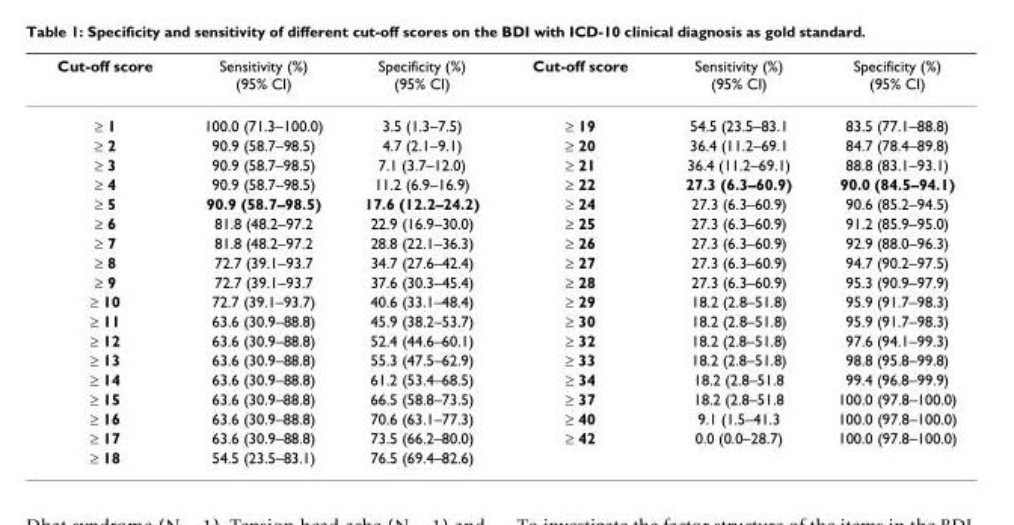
<table><thead><tr><td>Cut-off score</td><td>Sensitivity (%) (95% CI)</td><td>Specificity (%) (95% CI)</td><td>Cut-off score</td><td>Sensitivity (%) (95% CI)</td><td>Specificity (%) (95% CI)</td></tr></thead><tbody><tr><td>≥ 1</td><td>100.0 (71.3–100.0)</td><td>3.5 (1.3–7.5)</td><td>≥ 19</td><td>54.5 (23.5–83.1</td><td>83.5 (77.1–88.8)</td></tr><tr><td>≥ 2</td><td>90.9 (58.7–98.5)</td><td>4.7 (2.1–9.1)</td><td>≥ 20</td><td>36.4 (11.2–69.1</td><td>84.7 (78.4–89.8)</td></tr><tr><td>≥ 3</td><td>90.9 (58.7–98.5)</td><td>7.1 (3.7–12.0)</td><td>≥ 21</td><td>36.4 (11.2–69.1)</td><td>88.8 (83.1–93.1)</td></tr><tr><td>≥ 4</td><td>90.9 (58.7–98.5)</td><td>11.2 (6.9–16.9)</td><td>≥ 22</td><td>27.3 (6.3–60.9)</td><td>90.0 (84.5–94.1)</td></tr><tr><td>≥ 5</td><td>90.9 (58.7–98.5)</td><td>17.6 (12.2–24.2)</td><td>≥ 24</td><td>27.3 (6.3–60.9)</td><td>90.6 (85.2–94.5)</td></tr><tr><td>≥ 6</td><td>81.8 (48.2–97.2</td><td>22.9 (16.9–30.0)</td><td>≥ 25</td><td>27.3 (6.3–60.9)</td><td>91.2 (85.9–95.0)</td></tr><tr><td>≥ 7</td><td>81.8 (48.2–97.2</td><td>28.8 (22.1–36.3)</td><td>≥ 26</td><td>27.3 (6.3–60.9)</td><td>92.9 (88.0–96.3)</td></tr><tr><td>≥ 8</td><td>72.7 (39.1–93.7</td><td>34.7 (27.6–42.4)</td><td>≥ 27</td><td>27.3 (6.3–60.9)</td><td>94.7 (90.2–97.5)</td></tr><tr><td>≥ 9</td><td>72.7 (39.1–93.7</td><td>37.6 (30.3–45.4)</td><td>≥ 28</td><td>27.3 (6.3–60.9)</td><td>95.3 (90.9–97.9)</td></tr><tr><td>≥ 10</td><td>72.7 (39.1–93.7)</td><td>40.6 (33.1–48.4)</td><td>≥ 29</td><td>18.2 (2.8–51.8)</td><td>95.9 (91.7–98.3)</td></tr><tr><td>≥ 11</td><td>63.6 (30.9–88.8)</td><td>45.9 (38.2–53.7)</td><td>≥ 30</td><td>18.2 (2.8–51.8)</td><td>95.9 (91.7–98.3)</td></tr><tr><td>≥ 12</td><td>63.6 (30.9–88.8)</td><td>52.4 (44.6–60.1)</td><td>≥ 32</td><td>18.2 (2.8–51.8)</td><td>97.6 (94.1–99.3)</td></tr><tr><td>≥ 13</td><td>63.6 (30.9–88.8)</td><td>55.3 (47.5–62.9)</td><td>≥ 33</td><td>18.2 (2.8–51.8)</td><td>98.8 (95.8–99.8)</td></tr><tr><td>≥ 14</td><td>63.6 (30.9–88.8)</td><td>61.2 (53.4–68.5)</td><td>≥ 34</td><td>18.2 (2.8–51.8</td><td>99.4 (96.8–99.9)</td></tr><tr><td>≥ 15</td><td>63.6 (30.9–88.8)</td><td>66.5 (58.8–73.5)</td><td>≥ 37</td><td>18.2 (2.8–51.8</td><td>100.0 (97.8–100.0)</td></tr><tr><td>≥ 16</td><td>63.6 (30.9–88.8)</td><td>70.6 (63.1–77.3)</td><td>≥ 40</td><td>9.1 (1.5–41.3</td><td>100.0 (97.8–100.0)</td></tr><tr><td>≥ 17</td><td>63.6 (30.9–88.8)</td><td>73.5 (66.2–80.0)</td><td>≥ 42</td><td>0.0 (0.0–28.7)</td><td>100.0 (97.8–100.0)</td></tr><tr><td>≥ 18</td><td>54.5 (23.5–83.1)</td><td>76.5 (69.4–82.6)</td><td></td><td></td><td></td></tr></tbody></table>